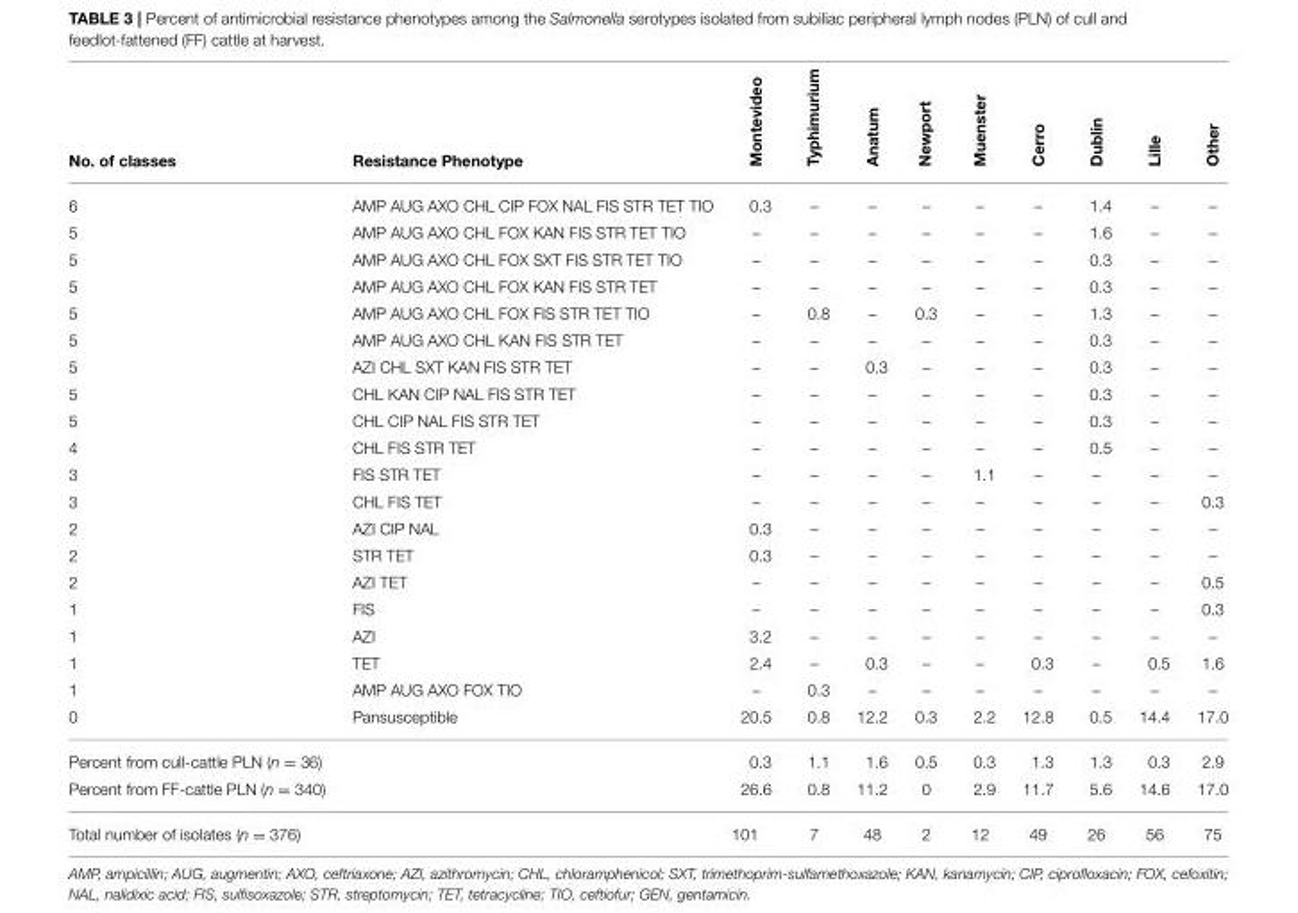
<table><thead><tr><td>No. of classes</td><td>Resistance Phenotype</td><td>Montevideo</td><td>Typhimurium</td><td>Anatum</td><td>Newport</td><td>Muenster</td><td>Cerro</td><td>Dublin</td><td>Lille</td><td>Other</td></tr></thead><tbody><tr><td>6</td><td>AMP AUG AXO CHL CIP FOX NAL FIS STR TET TIO</td><td>0.3</td><td>–</td><td>–</td><td>–</td><td>–</td><td>–</td><td>1.4</td><td>–</td><td>–</td></tr><tr><td>5</td><td>AMP AUG AXO CHL FOX KAN FIS STR TET TIO</td><td>–</td><td>–</td><td>–</td><td>–</td><td>–</td><td>–</td><td>1.6</td><td>–</td><td>–</td></tr><tr><td>5</td><td>AMP AUG AXO CHL FOX SXT FIS STR TET TIO</td><td>–</td><td>–</td><td>–</td><td>–</td><td>–</td><td>–</td><td>0.3</td><td>–</td><td>–</td></tr><tr><td>5</td><td>AMP AUG AXO CHL FOX KAN FIS STR TET</td><td>–</td><td>–</td><td>–</td><td>–</td><td>–</td><td>–</td><td>0.3</td><td>–</td><td>–</td></tr><tr><td>5</td><td>AMP AUG AXO CHL FOX FIS STR TET TIO</td><td>–</td><td>0.8</td><td>–</td><td>0.3</td><td>–</td><td>–</td><td>1.3</td><td>–</td><td>–</td></tr><tr><td>5</td><td>AMP AUG AXO CHL KAN FIS STR TET</td><td>–</td><td>–</td><td>–</td><td>–</td><td>–</td><td>–</td><td>0.3</td><td>–</td><td>–</td></tr><tr><td>5</td><td>AZI CHL SXT KAN FIS STR TET</td><td>–</td><td>–</td><td>0.3</td><td>–</td><td>–</td><td>–</td><td>0.3</td><td>–</td><td>–</td></tr><tr><td>5</td><td>CHL KAN CIP NAL FIS STR TET</td><td>–</td><td>–</td><td>–</td><td>–</td><td>–</td><td>–</td><td>0.3</td><td>–</td><td>–</td></tr><tr><td>5</td><td>CHL CIP NAL FIS STR TET</td><td>–</td><td>–</td><td>–</td><td>–</td><td>–</td><td>–</td><td>0.3</td><td>–</td><td>–</td></tr><tr><td>4</td><td>CHL FIS STR TET</td><td>–</td><td>–</td><td>–</td><td>–</td><td>–</td><td>–</td><td>0.5</td><td>–</td><td>–</td></tr><tr><td>3</td><td>FIS STR TET</td><td>–</td><td>–</td><td>–</td><td>–</td><td>1.1</td><td>–</td><td>–</td><td>–</td><td>–</td></tr><tr><td>3</td><td>CHL FIS TET</td><td>–</td><td>–</td><td>–</td><td>–</td><td>–</td><td>–</td><td>–</td><td>–</td><td>0.3</td></tr><tr><td>2</td><td>AZI CIP NAL</td><td>0.3</td><td>–</td><td>–</td><td>–</td><td>–</td><td>–</td><td>–</td><td>–</td><td>–</td></tr><tr><td>2</td><td>STR TET</td><td>0.3</td><td>–</td><td>–</td><td>–</td><td>–</td><td>–</td><td>–</td><td>–</td><td>–</td></tr><tr><td>2</td><td>AZI TET</td><td>–</td><td>–</td><td>–</td><td>–</td><td>–</td><td>–</td><td>–</td><td>–</td><td>0.5</td></tr><tr><td>1</td><td>FIS</td><td>–</td><td>–</td><td>–</td><td>–</td><td>–</td><td>–</td><td>–</td><td>–</td><td>0.3</td></tr><tr><td>1</td><td>AZI</td><td>3.2</td><td>–</td><td>–</td><td>–</td><td>–</td><td>–</td><td>–</td><td>–</td><td>–</td></tr><tr><td>1</td><td>TET</td><td>2.4</td><td>–</td><td>0.3</td><td>–</td><td>–</td><td>0.3</td><td>–</td><td>0.5</td><td>1.6</td></tr><tr><td>1</td><td>AMP AUG AXO FOX TIO</td><td>–</td><td>0.3</td><td>–</td><td>–</td><td>–</td><td>–</td><td>–</td><td>–</td><td>–</td></tr><tr><td>0</td><td>Pansusceptible</td><td>20.5</td><td>0.8</td><td>12.2</td><td>0.3</td><td>2.2</td><td>12.8</td><td>0.5</td><td>14.4</td><td>17.0</td></tr><tr><td>Percent from cull-cattle PLN (n = 36)</td><td></td><td>0.3</td><td>1.1</td><td>1.6</td><td>0.5</td><td>0.3</td><td>1.3</td><td>1.3</td><td>0.3</td><td>2.9</td></tr><tr><td>Percent from FF-cattle PLN (n = 340)</td><td></td><td>26.6</td><td>0.8</td><td>11.2</td><td>0</td><td>2.9</td><td>11.7</td><td>5.6</td><td>14.6</td><td>17.0</td></tr><tr><td>Total number of isolates (n = 376)</td><td></td><td>101</td><td>7</td><td>48</td><td>2</td><td>12</td><td>49</td><td>26</td><td>56</td><td>75</td></tr></tbody></table>